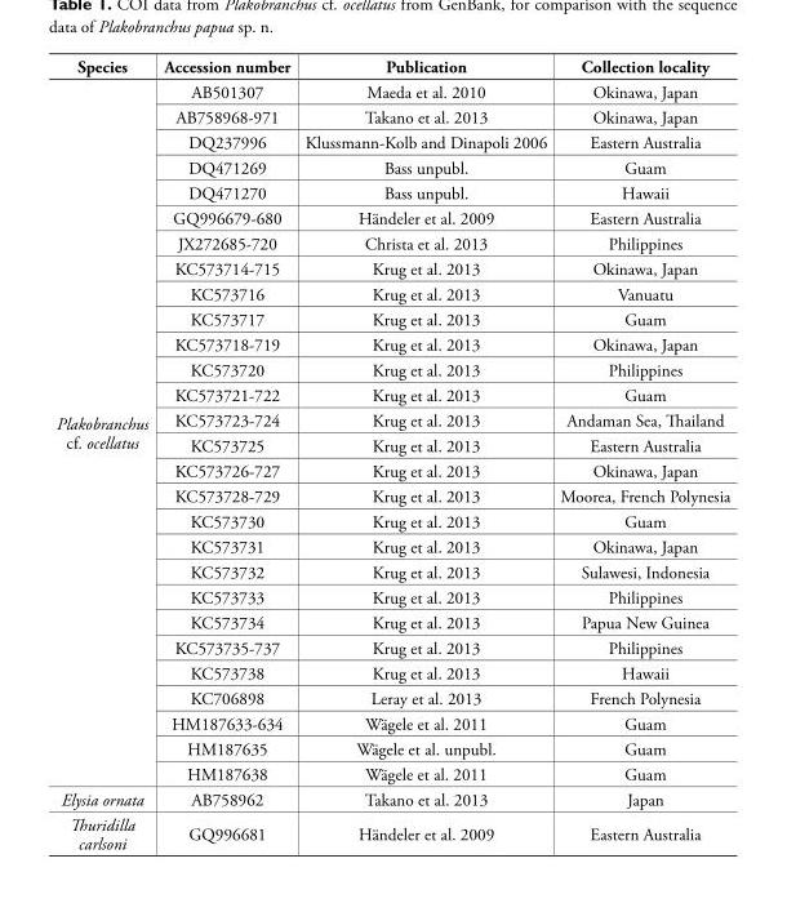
<table><thead><tr><td>Species</td><td>Accession number</td><td>Publication</td><td>Collection locality</td></tr></thead><tbody><tr><td rowspan="28">Plakobranchus cf. ocellatus</td><td>AB501307</td><td>Maeda et al. 2010</td><td>Okinawa, Japan</td></tr><tr><td>AB758968-971</td><td>Takano et al. 2013</td><td>Okinawa, Japan</td></tr><tr><td>DQ237996</td><td>Klussmann-Kolb and Dinapoli 2006</td><td>Eastern Australia</td></tr><tr><td>DQ471269</td><td>Bass unpubl.</td><td>Guam</td></tr><tr><td>DQ471270</td><td>Bass unpubl.</td><td>Hawaii</td></tr><tr><td>GQ996679-680</td><td>Händeler et al. 2009</td><td>Eastern Australia</td></tr><tr><td>JX272685-720</td><td>Christa et al. 2013</td><td>Philippines</td></tr><tr><td>KC573714-715</td><td>Krug et al. 2013</td><td>Okinawa, Japan</td></tr><tr><td>KC573716</td><td>Krug et al. 2013</td><td>Vanuatu</td></tr><tr><td>KC573717</td><td>Krug et al. 2013</td><td>Guam</td></tr><tr><td>KC573718-719</td><td>Krug et al. 2013</td><td>Okinawa, Japan</td></tr><tr><td>KC573720</td><td>Krug et al. 2013</td><td>Philippines</td></tr><tr><td>KC573721-722</td><td>Krug et al. 2013</td><td>Guam</td></tr><tr><td>KC573723-724</td><td>Krug et al. 2013</td><td>Andaman Sea, Thailand</td></tr><tr><td>KC573725</td><td>Krug et al. 2013</td><td>Eastern Australia</td></tr><tr><td>KC573726-727</td><td>Krug et al. 2013</td><td>Okinawa, Japan</td></tr><tr><td>KC573728-729</td><td>Krug et al. 2013</td><td>Moorea, French Polynesia</td></tr><tr><td>KC573730</td><td>Krug et al. 2013</td><td>Guam</td></tr><tr><td>KC573731</td><td>Krug et al. 2013</td><td>Okinawa, Japan</td></tr><tr><td>KC573732</td><td>Krug et al. 2013</td><td>Sulawesi, Indonesia</td></tr><tr><td>KC573733</td><td>Krug et al. 2013</td><td>Philippines</td></tr><tr><td>KC573734</td><td>Krug et al. 2013</td><td>Papua New Guinea</td></tr><tr><td>KC573735-737</td><td>Krug et al. 2013</td><td>Philippines</td></tr><tr><td>KC573738</td><td>Krug et al. 2013</td><td>Hawaii</td></tr><tr><td>KC706898</td><td>Leray et al. 2013</td><td>French Polynesia</td></tr><tr><td>HM187633-634</td><td>Wägele et al. 2011</td><td>Guam</td></tr><tr><td>HM187635</td><td>Wägele et al. unpubl.</td><td>Guam</td></tr><tr><td>HM187638</td><td>Wägele et al. 2011</td><td>Guam</td></tr><tr><td>Elysia ornata</td><td>AB758962</td><td>Takano et al. 2013</td><td>Japan</td></tr><tr><td>Thuridilla carlsoni</td><td>GQ996681</td><td>Händeler et al. 2009</td><td>Eastern Australia</td></tr></tbody></table>